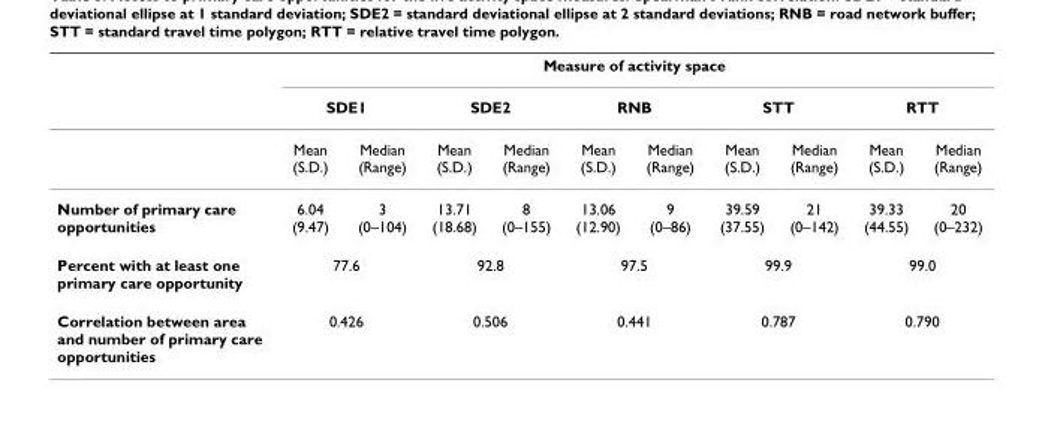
<table><thead><tr><td rowspan="3"></td><td colspan="10">Measure of activity space</td></tr><tr><td colspan="2">SDE1</td><td colspan="2">SDE2</td><td colspan="2">RNB</td><td colspan="2">STT</td><td colspan="2">RTT</td></tr><tr><td>Mean (S.D.)</td><td>Median (Range)</td><td>Mean (S.D.)</td><td>Median (Range)</td><td>Mean (S.D.)</td><td>Median (Range)</td><td>Mean (S.D.)</td><td>Median (Range)</td><td>Mean (S.D.)</td><td>Median (Range)</td></tr></thead><tbody><tr><td>Number of primary care opportunities</td><td>6.04 (9.47)</td><td>3 (0–104)</td><td>13.71 (18.68)</td><td>8 (0–155)</td><td>13.06 (12.90)</td><td>9 (0–86)</td><td>39.59 (37.55)</td><td>21 (0–142)</td><td>39.33 (44.55)</td><td>20 (0–232)</td></tr><tr><td>Percent with at least one primary care opportunity</td><td colspan="2">77.6</td><td colspan="2">92.8</td><td colspan="2">97.5</td><td colspan="2">99.9</td><td colspan="2">99.0</td></tr><tr><td>Correlation between area and number of primary care opportunities</td><td colspan="2">0.426</td><td colspan="2">0.506</td><td colspan="2">0.441</td><td colspan="2">0.787</td><td colspan="2">0.790</td></tr></tbody></table>